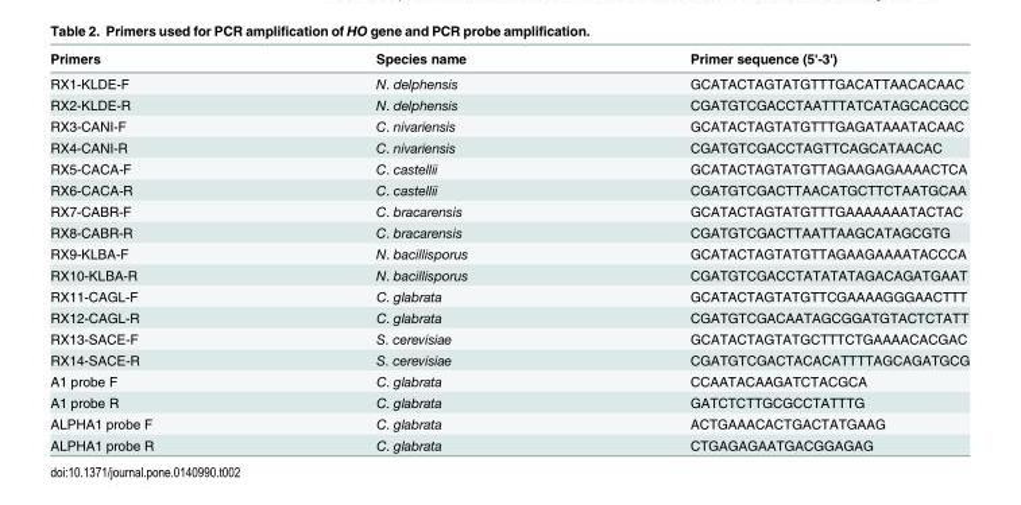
<table><thead><tr><td>Primers</td><td>Species name</td><td>Primer sequence (5&#x27;-3&#x27;)</td></tr></thead><tbody><tr><td>RX1-KLDE-F</td><td>N. delphensis</td><td>GCATACTAGTATGTTTGACATTAACACAAC</td></tr><tr><td>RX2-KLDE-R</td><td>N. delphensis</td><td>CGATGTCGACCTAATTTATCATAGCACGCC</td></tr><tr><td>RX3-CANI-F</td><td>C. nivariensis</td><td>GCATACTAGTATGTTTGAGATAAATACAAC</td></tr><tr><td>RX4-CANI-R</td><td>C. nivariensis</td><td>CGATGTCGACCTAGTTCAGCATAACAC</td></tr><tr><td>RX5-CACA-F</td><td>C. castellii</td><td>GCATACTAGTATGTTAGAAGAGAAAACTCA</td></tr><tr><td>RX6-CACA-R</td><td>C. castellii</td><td>CGATGTCGACTTAACATGCTTCTAATGCAA</td></tr><tr><td>RX7-CABR-F</td><td>C. bracarensis</td><td>GCATACTAGTATGTTTGAAAAAAATACTAC</td></tr><tr><td>RX8-CABR-R</td><td>C. bracarensis</td><td>CGATGTCGACTTAATTAAGCATAGCGTG</td></tr><tr><td>RX9-KLBA-F</td><td>N. bacillisporus</td><td>GCATACTAGTATGTTAGAAGAAAATACCCA</td></tr><tr><td>RX10-KLBA-R</td><td>N. bacillisporus</td><td>CGATGTCGACCTATATATAGACAGATGAAT</td></tr><tr><td>RX11-CAGL-F</td><td>C. glabrata</td><td>GCATACTAGTATGTTCGAAAAGGGAACTTT</td></tr><tr><td>RX12-CAGL-R</td><td>C. glabrata</td><td>CGATGTCGACAATAGCGGATGTACTCTATT</td></tr><tr><td>RX13-SACE-F</td><td>S. cerevisiae</td><td>GCATACTAGTATGCTTTCTGAAAACACGAC</td></tr><tr><td>RX14-SACE-R</td><td>S. cerevisiae</td><td>CGATGTCGACTACACATTTTAGCAGATGCG</td></tr><tr><td>A1 probe F</td><td>C. glabrata</td><td>CCAATACAAGATCTACGCA</td></tr><tr><td>A1 probe R</td><td>C. glabrata</td><td>GATCTCTTGCGCCTATTTG</td></tr><tr><td>ALPHA1 probe F</td><td>C. glabrata</td><td>ACTGAAACACTGACTATGAAG</td></tr><tr><td>ALPHA1 probe R</td><td>C. glabrata</td><td>CTGAGAGAATGACGGAGAG</td></tr></tbody></table>